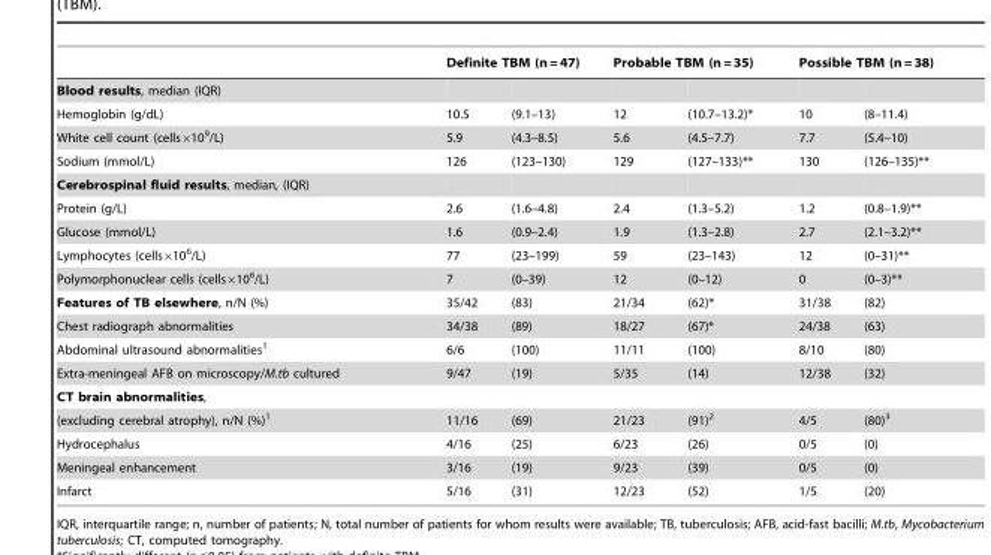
<table><thead><tr><td rowspan="2">Blood results, median (IQR)</td><td colspan="2">Definite TBM (n = 47)</td><td colspan="2">Probable TBM (n = 35)</td><td colspan="2">Possible TBM (n = 38)</td></tr><tr><td></td><td></td><td></td><td></td><td></td><td></td></tr></thead><tbody><tr><td>Hemoglobin (g/dL)</td><td>10.5</td><td>(9.1–13)</td><td>12</td><td>(10.7–13.2)*</td><td>10</td><td>(8–11.4)</td></tr><tr><td>White cell count (cells×10<sup>9</sup>/L)</td><td>5.9</td><td>(4.3–8.5)</td><td>5.6</td><td>(4.5–7.7)</td><td>7.7</td><td>(5.4–10)</td></tr><tr><td>Sodium (mmol/L)</td><td>126</td><td>(123–130)</td><td>129</td><td>(127–133)**</td><td>130</td><td>(126–135)**</td></tr><tr><td colspan="7">Cerebrospinal fluid results, median, (IQR)</td></tr><tr><td>Protein (g/L)</td><td>2.6</td><td>(1.6–4.8)</td><td>2.4</td><td>(1.3–5.2)</td><td>1.2</td><td>(0.8–1.9)**</td></tr><tr><td>Glucose (mmol/L)</td><td>1.6</td><td>(0.9–2.4)</td><td>1.9</td><td>(1.3–2.8)</td><td>2.7</td><td>(2.1–3.2)**</td></tr><tr><td>Lymphocytes (cells×10<sup>6</sup>/L)</td><td>77</td><td>(23–199)</td><td>59</td><td>(23–143)</td><td>12</td><td>(0–31)**</td></tr><tr><td>Polymorphonuclear cells (cells×10<sup>6</sup>/L)</td><td>7</td><td>(0–39)</td><td>12</td><td>(0–12)</td><td>0</td><td>(0–3)**</td></tr><tr><td>Features of TB elsewhere, n/N (%)</td><td>35/42</td><td>(83)</td><td>21/34</td><td>(62)*</td><td>31/38</td><td>(82)</td></tr><tr><td>Chest radiograph abnormalities</td><td>34/38</td><td>(89)</td><td>18/27</td><td>(67)*</td><td>24/38</td><td>(63)</td></tr><tr><td>Abdominal ultrasound abnormalities<sup>1</sup></td><td>6/6</td><td>(100)</td><td>11/11</td><td>(100)</td><td>8/10</td><td>(80)</td></tr><tr><td>Extra-meningeal AFB on microscopy/M.tb cultured</td><td>9/47</td><td>(19)</td><td>5/35</td><td>(14)</td><td>12/38</td><td>(32)</td></tr><tr><td colspan="7">CT brain abnormalities,</td></tr><tr><td>(excluding cerebral atrophy), n/N (%)<sup>1</sup></td><td>11/16</td><td>(69)</td><td>21/23</td><td>(91)<sup>2</sup></td><td>4/5</td><td>(80)<sup>3</sup></td></tr><tr><td>Hydrocephalus</td><td>4/16</td><td>(25)</td><td>6/23</td><td>(26)</td><td>0/5</td><td>(0)</td></tr><tr><td>Meningeal enhancement</td><td>3/16</td><td>(19)</td><td>9/23</td><td>(39)</td><td>0/5</td><td>(0)</td></tr><tr><td>Infarct</td><td>5/16</td><td>(31)</td><td>12/23</td><td>(52)</td><td>1/5</td><td>(20)</td></tr></tbody></table>